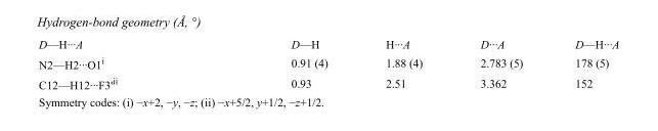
<table><tbody><tr><td>D—H···A</td><td>D—H</td><td>H···A</td><td>D···A</td><td>D—H···A</td></tr><tr><td>N2—H2···O1<sup>i</sup></td><td>0.91 (4)</td><td>1.88 (4)</td><td>2.783 (5)</td><td>178 (5)</td></tr><tr><td>C12—H12···F3&#x27;<sup>ii</sup></td><td>0.93</td><td>2.51</td><td>3.362</td><td>152</td></tr></tbody></table>